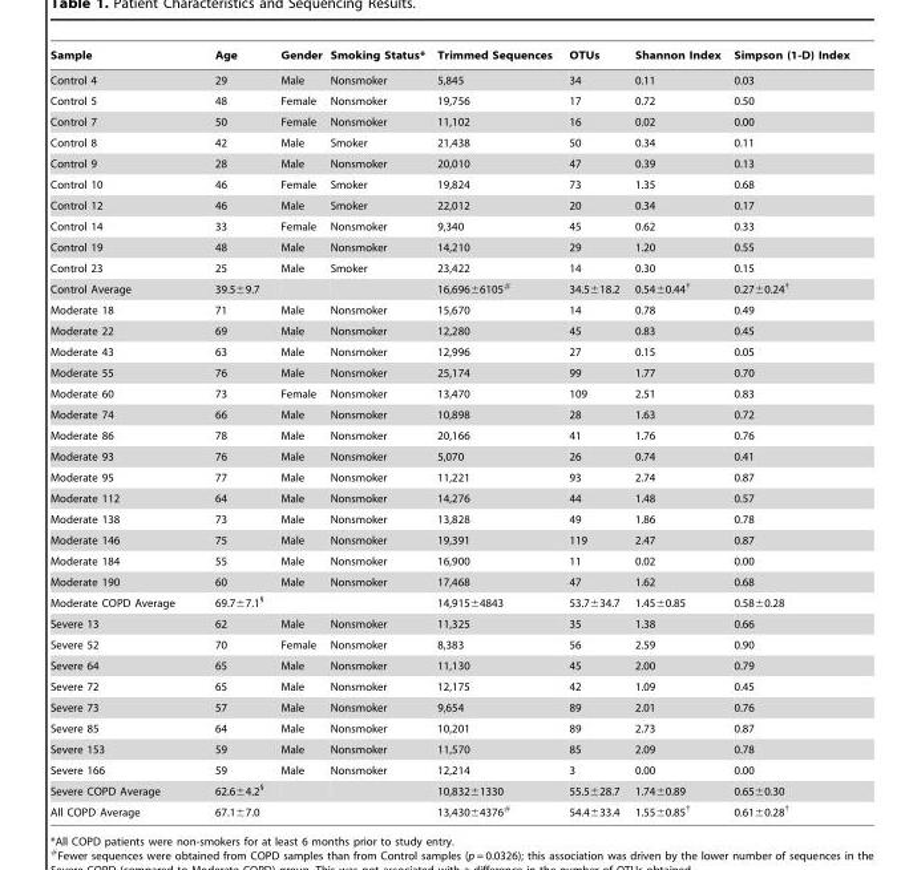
<table><thead><tr><td>Sample</td><td>Age</td><td>Gender</td><td>Smoking Status*</td><td>Trimmed Sequences</td><td>OTUs</td><td>Shannon Index</td><td>Simpson (1-D) Index</td></tr></thead><tbody><tr><td>Control 4</td><td>29</td><td>Male</td><td>Nonsmoker</td><td>5,845</td><td>34</td><td>0.11</td><td>0.03</td></tr><tr><td>Control 5</td><td>48</td><td>Female</td><td>Nonsmoker</td><td>19,756</td><td>17</td><td>0.72</td><td>0.50</td></tr><tr><td>Control 7</td><td>50</td><td>Female</td><td>Nonsmoker</td><td>11,102</td><td>16</td><td>0.02</td><td>0.00</td></tr><tr><td>Control 8</td><td>42</td><td>Male</td><td>Smoker</td><td>21,438</td><td>50</td><td>0.34</td><td>0.11</td></tr><tr><td>Control 9</td><td>28</td><td>Male</td><td>Nonsmoker</td><td>20,010</td><td>47</td><td>0.39</td><td>0.13</td></tr><tr><td>Control 10</td><td>46</td><td>Female</td><td>Smoker</td><td>19,824</td><td>73</td><td>1.35</td><td>0.68</td></tr><tr><td>Control 12</td><td>46</td><td>Male</td><td>Smoker</td><td>22,012</td><td>20</td><td>0.34</td><td>0.17</td></tr><tr><td>Control 14</td><td>33</td><td>Female</td><td>Nonsmoker</td><td>9,340</td><td>45</td><td>0.62</td><td>0.33</td></tr><tr><td>Control 19</td><td>48</td><td>Male</td><td>Nonsmoker</td><td>14,210</td><td>29</td><td>1.20</td><td>0.55</td></tr><tr><td>Control 23</td><td>25</td><td>Male</td><td>Smoker</td><td>23,422</td><td>14</td><td>0.30</td><td>0.15</td></tr><tr><td>Control Average</td><td>39.5±9.7</td><td></td><td></td><td>16,696±6105#</td><td>34.5±18.2</td><td>0.54±0.44†</td><td>0.27±0.24†</td></tr><tr><td>Moderate 18</td><td>71</td><td>Male</td><td>Nonsmoker</td><td>15,670</td><td>14</td><td>0.78</td><td>0.49</td></tr><tr><td>Moderate 22</td><td>69</td><td>Male</td><td>Nonsmoker</td><td>12,280</td><td>45</td><td>0.83</td><td>0.45</td></tr><tr><td>Moderate 43</td><td>63</td><td>Male</td><td>Nonsmoker</td><td>12,996</td><td>27</td><td>0.15</td><td>0.05</td></tr><tr><td>Moderate 55</td><td>76</td><td>Male</td><td>Nonsmoker</td><td>25,174</td><td>99</td><td>1.77</td><td>0.70</td></tr><tr><td>Moderate 60</td><td>73</td><td>Female</td><td>Nonsmoker</td><td>13,470</td><td>109</td><td>2.51</td><td>0.83</td></tr><tr><td>Moderate 74</td><td>66</td><td>Male</td><td>Nonsmoker</td><td>10,898</td><td>28</td><td>1.63</td><td>0.72</td></tr><tr><td>Moderate 86</td><td>78</td><td>Male</td><td>Nonsmoker</td><td>20,166</td><td>41</td><td>1.76</td><td>0.76</td></tr><tr><td>Moderate 93</td><td>76</td><td>Male</td><td>Nonsmoker</td><td>5,070</td><td>26</td><td>0.74</td><td>0.41</td></tr><tr><td>Moderate 95</td><td>77</td><td>Male</td><td>Nonsmoker</td><td>11,221</td><td>93</td><td>2.74</td><td>0.87</td></tr><tr><td>Moderate 112</td><td>64</td><td>Male</td><td>Nonsmoker</td><td>14,276</td><td>44</td><td>1.48</td><td>0.57</td></tr><tr><td>Moderate 138</td><td>73</td><td>Male</td><td>Nonsmoker</td><td>13,828</td><td>49</td><td>1.86</td><td>0.78</td></tr><tr><td>Moderate 146</td><td>75</td><td>Male</td><td>Nonsmoker</td><td>19,391</td><td>119</td><td>2.47</td><td>0.87</td></tr><tr><td>Moderate 184</td><td>55</td><td>Male</td><td>Nonsmoker</td><td>16,900</td><td>11</td><td>0.02</td><td>0.00</td></tr><tr><td>Moderate 190</td><td>60</td><td>Male</td><td>Nonsmoker</td><td>17,468</td><td>47</td><td>1.62</td><td>0.68</td></tr><tr><td>Moderate COPD Average</td><td>69.7±7.1§</td><td></td><td></td><td>14,915±4843</td><td>53.7±34.7</td><td>1.45±0.85</td><td>0.58±0.28</td></tr><tr><td>Severe 13</td><td>62</td><td>Male</td><td>Nonsmoker</td><td>11,325</td><td>35</td><td>1.38</td><td>0.66</td></tr><tr><td>Severe 52</td><td>70</td><td>Female</td><td>Nonsmoker</td><td>8,383</td><td>56</td><td>2.59</td><td>0.90</td></tr><tr><td>Severe 64</td><td>65</td><td>Male</td><td>Nonsmoker</td><td>11,130</td><td>45</td><td>2.00</td><td>0.79</td></tr><tr><td>Severe 72</td><td>65</td><td>Male</td><td>Nonsmoker</td><td>12,175</td><td>42</td><td>1.09</td><td>0.45</td></tr><tr><td>Severe 73</td><td>57</td><td>Male</td><td>Nonsmoker</td><td>9,654</td><td>89</td><td>2.01</td><td>0.76</td></tr><tr><td>Severe 85</td><td>64</td><td>Male</td><td>Nonsmoker</td><td>10,201</td><td>89</td><td>2.73</td><td>0.87</td></tr><tr><td>Severe 153</td><td>59</td><td>Male</td><td>Nonsmoker</td><td>11,570</td><td>85</td><td>2.09</td><td>0.78</td></tr><tr><td>Severe 166</td><td>59</td><td>Male</td><td>Nonsmoker</td><td>12,214</td><td>3</td><td>0.00</td><td>0.00</td></tr><tr><td>Severe COPD Average</td><td>62.6±4.2§</td><td></td><td></td><td>10,832±1330</td><td>55.5±28.7</td><td>1.74±0.89</td><td>0.65±0.30</td></tr><tr><td>All COPD Average</td><td>67.1±7.0</td><td></td><td></td><td>13,430±4376#</td><td>54.4±33.4</td><td>1.55±0.85†</td><td>0.61±0.28†</td></tr></tbody></table>